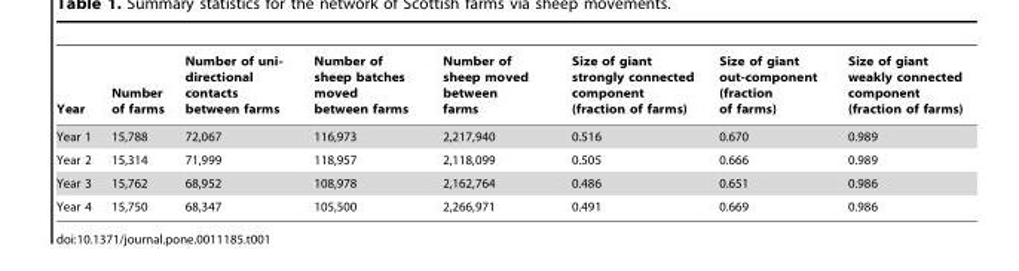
<table><thead><tr><td>Year</td><td>Number of farms</td><td>Number of uni- directional contacts between farms</td><td>Number of sheep batches moved between farms</td><td>Number of sheep moved between farms</td><td>Size of giant strongly connected component (fraction of farms)</td><td>Size of giant out-component (fraction of farms)</td><td>Size of giant weakly connected component (fraction of farms)</td></tr></thead><tbody><tr><td>Year 1</td><td>15,788</td><td>72,067</td><td>116,973</td><td>2,217,940</td><td>0.516</td><td>0.670</td><td>0.989</td></tr><tr><td>Year 2</td><td>15,314</td><td>71,999</td><td>118,957</td><td>2,118,099</td><td>0.505</td><td>0.666</td><td>0.989</td></tr><tr><td>Year 3</td><td>15,762</td><td>68,952</td><td>108,978</td><td>2,162,764</td><td>0.486</td><td>0.651</td><td>0.986</td></tr><tr><td>Year 4</td><td>15,750</td><td>68,347</td><td>105,500</td><td>2,266,971</td><td>0.491</td><td>0.669</td><td>0.986</td></tr></tbody></table>